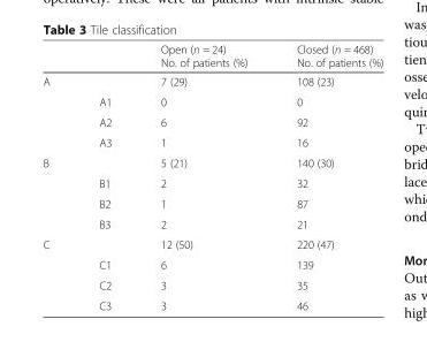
<table><thead><tr><td></td><td></td><td>Open (n = 24) No. of patients (%)</td><td>Closed (n = 468) No. of patients (%)</td></tr></thead><tbody><tr><td rowspan="4">A</td><td></td><td>7 (29)</td><td>108 (23)</td></tr><tr><td>A1</td><td>0</td><td>0</td></tr><tr><td>A2</td><td>6</td><td>92</td></tr><tr><td>A3</td><td>1</td><td>16</td></tr><tr><td rowspan="4">B</td><td></td><td>5 (21)</td><td>140 (30)</td></tr><tr><td>B1</td><td>2</td><td>32</td></tr><tr><td>B2</td><td>1</td><td>87</td></tr><tr><td>B3</td><td>2</td><td>21</td></tr><tr><td rowspan="4">C</td><td></td><td>12 (50)</td><td>220 (47)</td></tr><tr><td>C1</td><td>6</td><td>139</td></tr><tr><td>C2</td><td>3</td><td>35</td></tr><tr><td>C3</td><td>3</td><td>46</td></tr></tbody></table>